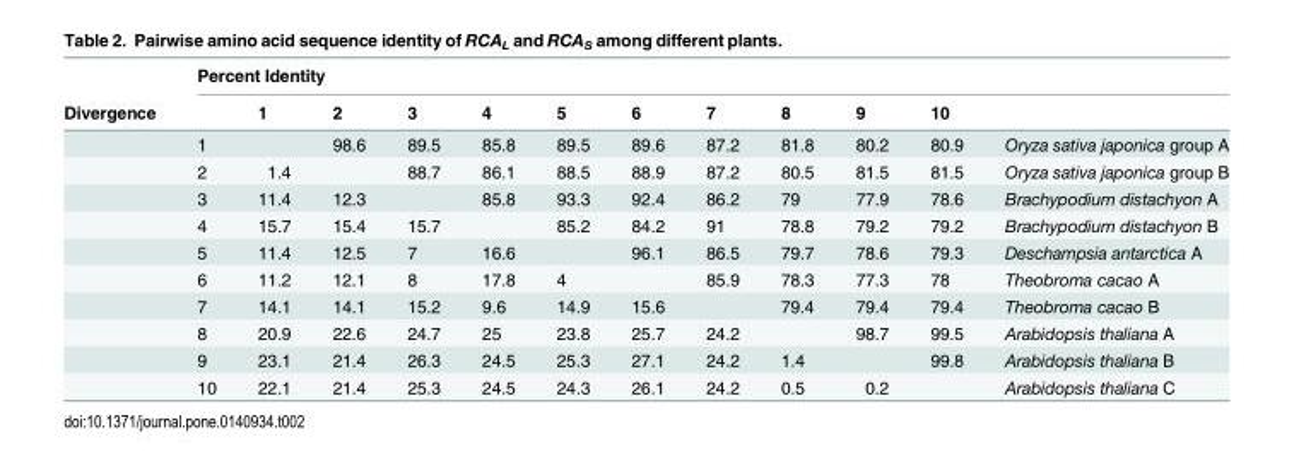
<table><thead><tr><td rowspan="2">Divergence</td><td colspan="12">Percent Identity</td></tr><tr><td></td><td>1</td><td>2</td><td>3</td><td>4</td><td>5</td><td>6</td><td>7</td><td>8</td><td>9</td><td>10</td><td></td></tr></thead><tbody><tr><td></td><td>1</td><td></td><td>98.6</td><td>89.5</td><td>85.8</td><td>89.5</td><td>89.6</td><td>87.2</td><td>81.8</td><td>80.2</td><td>80.9</td><td>Oryza sativa japonica group A</td></tr><tr><td></td><td>2</td><td>1.4</td><td></td><td>88.7</td><td>86.1</td><td>88.5</td><td>88.9</td><td>87.2</td><td>80.5</td><td>81.5</td><td>81.5</td><td>Oryza sativa japonica group B</td></tr><tr><td></td><td>3</td><td>11.4</td><td>12.3</td><td></td><td>85.8</td><td>93.3</td><td>92.4</td><td>86.2</td><td>79</td><td>77.9</td><td>78.6</td><td>Brachypodium distachyon A</td></tr><tr><td></td><td>4</td><td>15.7</td><td>15.4</td><td>15.7</td><td></td><td>85.2</td><td>84.2</td><td>91</td><td>78.8</td><td>79.2</td><td>79.2</td><td>Brachypodium distachyon B</td></tr><tr><td></td><td>5</td><td>11.4</td><td>12.5</td><td>7</td><td>16.6</td><td></td><td>96.1</td><td>86.5</td><td>79.7</td><td>78.6</td><td>79.3</td><td>Deschampsia antarctica A</td></tr><tr><td></td><td>6</td><td>11.2</td><td>12.1</td><td>8</td><td>17.8</td><td>4</td><td></td><td>85.9</td><td>78.3</td><td>77.3</td><td>78</td><td>Theobroma cacao A</td></tr><tr><td></td><td>7</td><td>14.1</td><td>14.1</td><td>15.2</td><td>9.6</td><td>14.9</td><td>15.6</td><td></td><td>79.4</td><td>79.4</td><td>79.4</td><td>Theobroma cacao B</td></tr><tr><td></td><td>8</td><td>20.9</td><td>22.6</td><td>24.7</td><td>25</td><td>23.8</td><td>25.7</td><td>24.2</td><td></td><td>98.7</td><td>99.5</td><td>Arabidopsis thaliana A</td></tr><tr><td></td><td>9</td><td>23.1</td><td>21.4</td><td>26.3</td><td>24.5</td><td>25.3</td><td>27.1</td><td>24.2</td><td>1.4</td><td></td><td>99.8</td><td>Arabidopsis thaliana B</td></tr><tr><td></td><td>10</td><td>22.1</td><td>21.4</td><td>25.3</td><td>24.5</td><td>24.3</td><td>26.1</td><td>24.2</td><td>0.5</td><td>0.2</td><td></td><td>Arabidopsis thaliana C</td></tr></tbody></table>